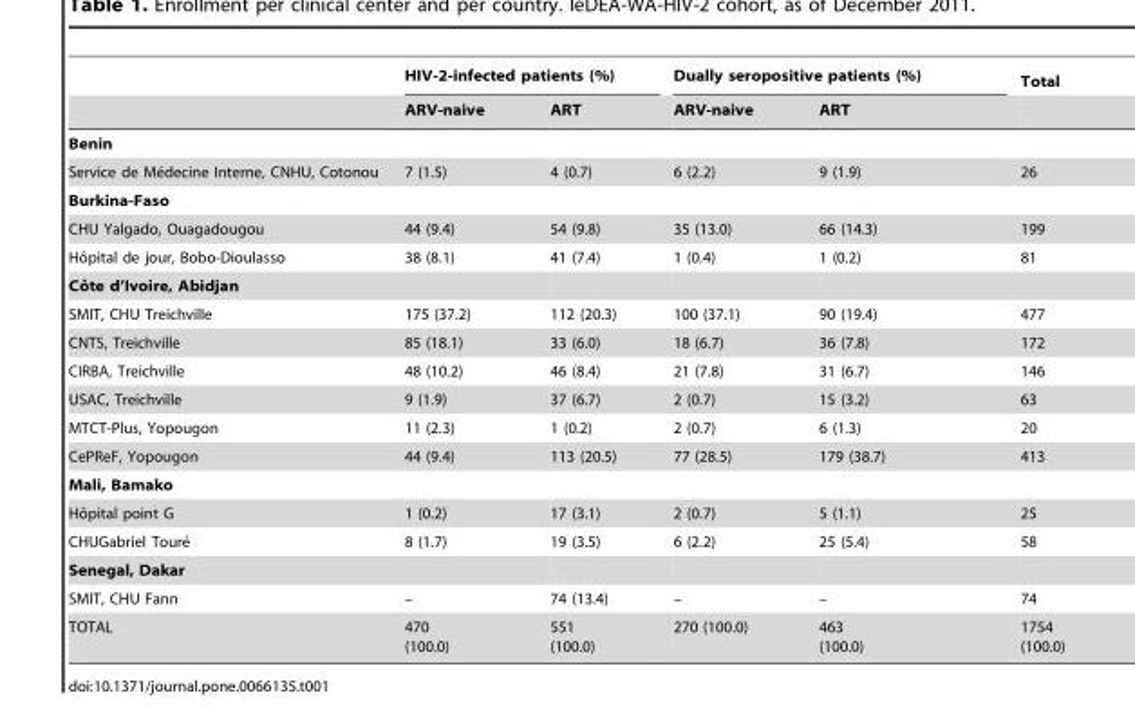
<table><thead><tr><td rowspan="2"></td><td colspan="2">HIV-2-infected patients (%)</td><td colspan="2">Dually seropositive patients (%)</td><td rowspan="2">Total</td></tr><tr><td>ARV-naive</td><td>ART</td><td>ARV-naive</td><td>ART</td></tr></thead><tbody><tr><td colspan="6">Benin</td></tr><tr><td>Service de Me´decine Interne, CNHU, Cotonou</td><td>7 (1.5)</td><td>4 (0.7)</td><td>6 (2.2)</td><td>9 (1.9)</td><td>26</td></tr><tr><td colspan="6">Burkina-Faso</td></tr><tr><td>CHU Yalgado, Ouagadougou</td><td>44 (9.4)</td><td>54 (9.8)</td><td>35 (13.0)</td><td>66 (14.3)</td><td>199</td></tr><tr><td>Hoˆpital de jour, Bobo-Dioulasso</td><td>38 (8.1)</td><td>41 (7.4)</td><td>1 (0.4)</td><td>1 (0.2)</td><td>81</td></tr><tr><td colspan="6">Coˆ te d’Ivoire, Abidjan</td></tr><tr><td>SMIT, CHU Treichville</td><td>175 (37.2)</td><td>112 (20.3)</td><td>100 (37.1)</td><td>90 (19.4)</td><td>477</td></tr><tr><td>CNTS, Treichville</td><td>85 (18.1)</td><td>33 (6.0)</td><td>18 (6.7)</td><td>36 (7.8)</td><td>172</td></tr><tr><td>CIRBA, Treichville</td><td>48 (10.2)</td><td>46 (8.4)</td><td>21 (7.8)</td><td>31 (6.7)</td><td>146</td></tr><tr><td>USAC, Treichville</td><td>9 (1.9)</td><td>37 (6.7)</td><td>2 (0.7)</td><td>15 (3.2)</td><td>63</td></tr><tr><td>MTCT-Plus, Yopougon</td><td>11 (2.3)</td><td>1 (0.2)</td><td>2 (0.7)</td><td>6 (1.3)</td><td>20</td></tr><tr><td>CePReF, Yopougon</td><td>44 (9.4)</td><td>113 (20.5)</td><td>77 (28.5)</td><td>179 (38.7)</td><td>413</td></tr><tr><td colspan="6">Mali, Bamako</td></tr><tr><td>Hoˆpital point G</td><td>1 (0.2)</td><td>17 (3.1)</td><td>2 (0.7)</td><td>5 (1.1)</td><td>25</td></tr><tr><td>CHUGabriel Toure´</td><td>8 (1.7)</td><td>19 (3.5)</td><td>6 (2.2)</td><td>25 (5.4)</td><td>58</td></tr><tr><td colspan="6">Senegal, Dakar</td></tr><tr><td>SMIT, CHU Fann</td><td>–</td><td>74 (13.4)</td><td>–</td><td>–</td><td>74</td></tr><tr><td>TOTAL</td><td>470 (100.0)</td><td>551 (100.0)</td><td>270 (100.0)</td><td>463 (100.0)</td><td>1754 (100.0)</td></tr></tbody></table>